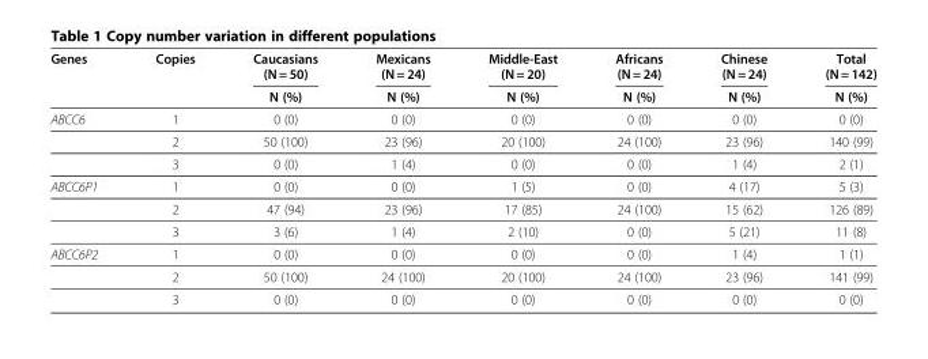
<table><thead><tr><td rowspan="2">Genes</td><td rowspan="2">Copies</td><td rowspan="2">Caucasians (N = 50) N (%)</td><td rowspan="2">Mexicans (N = 24) N (%)</td><td rowspan="2">Middle-East (N = 20) N (%)</td><td rowspan="2">Africans (N = 24) N (%)</td><td rowspan="2">Chinese (N = 24) N (%)</td><td rowspan="2">Total (N = 142) N (%)</td></tr><tr></tr></thead><tbody><tr><td rowspan="3">ABCC6</td><td>1</td><td>0 (0)</td><td>0 (0)</td><td>0 (0)</td><td>0 (0)</td><td>0 (0)</td><td>0 (0)</td></tr><tr><td>2</td><td>50 (100)</td><td>23 (96)</td><td>20 (100)</td><td>24 (100)</td><td>23 (96)</td><td>140 (99)</td></tr><tr><td>3</td><td>0 (0)</td><td>1 (4)</td><td>0 (0)</td><td>0 (0)</td><td>1 (4)</td><td>2 (1)</td></tr><tr><td rowspan="3">ABCC6P1</td><td>1</td><td>0 (0)</td><td>0 (0)</td><td>1 (5)</td><td>0 (0)</td><td>4 (17)</td><td>5 (3)</td></tr><tr><td>2</td><td>47 (94)</td><td>23 (96)</td><td>17 (85)</td><td>24 (100)</td><td>15 (62)</td><td>126 (89)</td></tr><tr><td>3</td><td>3 (6)</td><td>1 (4)</td><td>2 (10)</td><td>0 (0)</td><td>5 (21)</td><td>11 (8)</td></tr><tr><td rowspan="3">ABCC6P2</td><td>1</td><td>0 (0)</td><td>0 (0)</td><td>0 (0)</td><td>0 (0)</td><td>1 (4)</td><td>1 (1)</td></tr><tr><td>2</td><td>50 (100)</td><td>24 (100)</td><td>20 (100)</td><td>24 (100)</td><td>23 (96)</td><td>141 (99)</td></tr><tr><td>3</td><td>0 (0)</td><td>0 (0)</td><td>0 (0)</td><td>0 (0)</td><td>0 (0)</td><td>0 (0)</td></tr></tbody></table>